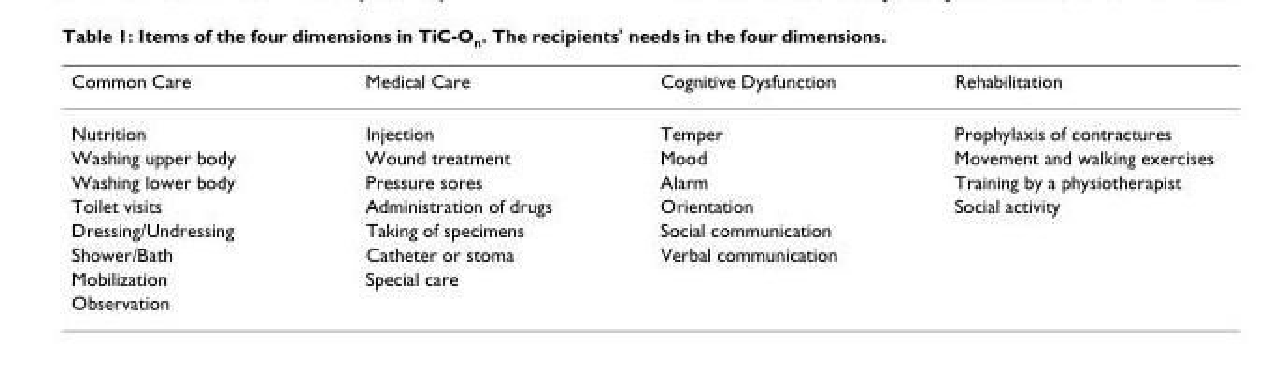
<table><thead><tr><td>Common Care</td><td>Medical Care</td><td>Cognitive Dysfunction</td><td>Rehabilitation</td></tr></thead><tbody><tr><td>Nutrition</td><td>Injection</td><td>Temper</td><td>Prophylaxis of contractures</td></tr><tr><td>Washing upper body</td><td>Wound treatment</td><td>Mood</td><td>Movement and walking exercises</td></tr><tr><td>Washing lower body</td><td>Pressure sores</td><td>Alarm</td><td>Training by a physiotherapist</td></tr><tr><td>Toilet visits</td><td>Administration of drugs</td><td>Orientation</td><td>Social activity</td></tr><tr><td>Dressing/Undressing</td><td>Taking of specimens</td><td>Social communication</td><td></td></tr><tr><td>Shower/Bath</td><td>Catheter or stoma</td><td>Verbal communication</td><td></td></tr><tr><td>Mobilization</td><td>Special care</td><td></td><td></td></tr><tr><td>Observation</td><td></td><td></td><td></td></tr></tbody></table>